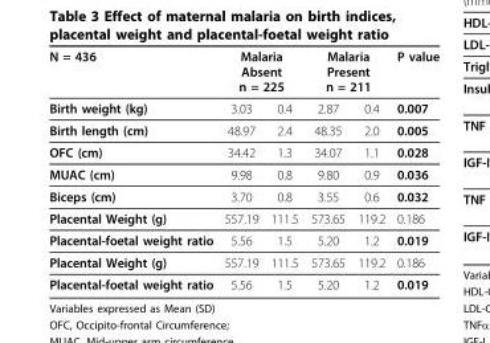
<table><thead><tr><td rowspan="2">N = 436 Birth weight (kg)</td><td colspan="2">Malaria Absent n = 225</td><td colspan="2">Malaria Present n = 211</td><td rowspan="2">P value 0.007</td></tr><tr><td>3.03</td><td>0.4</td><td>2.87</td><td>0.4</td></tr></thead><tbody><tr><td>Birth length (cm)</td><td>48.97</td><td>2.4</td><td>48.35</td><td>2.0</td><td>0.005</td></tr><tr><td>OFC (cm)</td><td>34.42</td><td>1.3</td><td>34.07</td><td>1.1</td><td>0.028</td></tr><tr><td>MUAC (cm)</td><td>9.98</td><td>0.8</td><td>9.80</td><td>0.9</td><td>0.036</td></tr><tr><td>Biceps (cm)</td><td>3.70</td><td>0.8</td><td>3.55</td><td>0.6</td><td>0.032</td></tr><tr><td>Placental Weight (g)</td><td>557.19</td><td>111.5</td><td>573.65</td><td>119.2</td><td>0.186</td></tr><tr><td>Placental-foetal weight ratio</td><td>5.56</td><td>1.5</td><td>5.20</td><td>1.2</td><td>0.019</td></tr><tr><td>Placental Weight (g)</td><td>557.19</td><td>111.5</td><td>573.65</td><td>119.2</td><td>0.186</td></tr><tr><td>Placental-foetal weight ratio</td><td>5.56</td><td>1.5</td><td>5.20</td><td>1.2</td><td>0.019</td></tr></tbody></table>